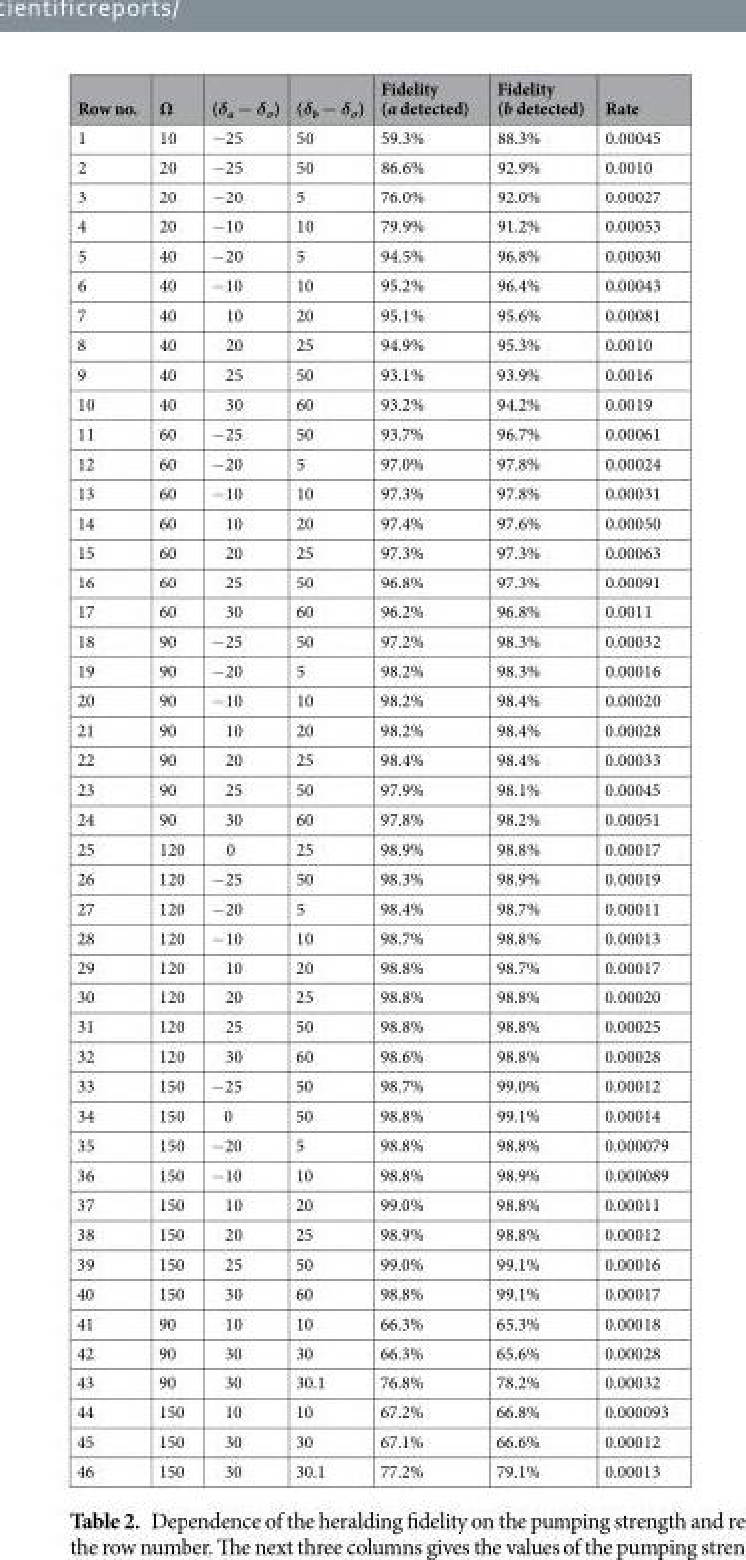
<table><thead><tr><td>Row no.</td><td>Ω</td><td>(δ<sub>a</sub> − δ<sub>σ</sub>)</td><td>(δ<sub>b</sub> − δ<sub>σ</sub>)</td><td>Fidelity (a detected)</td><td>Fidelity (b detected)</td><td>Rate</td></tr></thead><tbody><tr><td>1</td><td>10</td><td>−25</td><td>50</td><td>59.3%</td><td>88.3%</td><td>0.00045</td></tr><tr><td>2</td><td>20</td><td>−25</td><td>50</td><td>86.6%</td><td>92.9%</td><td>0.0010</td></tr><tr><td>3</td><td>20</td><td>−20</td><td>5</td><td>76.0%</td><td>92.0%</td><td>0.00027</td></tr><tr><td>4</td><td>20</td><td>−10</td><td>10</td><td>79.9%</td><td>91.2%</td><td>0.00053</td></tr><tr><td>5</td><td>40</td><td>−20</td><td>5</td><td>94.5%</td><td>96.8%</td><td>0.00030</td></tr><tr><td>6</td><td>40</td><td>−10</td><td>10</td><td>95.2%</td><td>96.4%</td><td>0.00043</td></tr><tr><td>7</td><td>40</td><td>10</td><td>20</td><td>95.1%</td><td>95.6%</td><td>0.00081</td></tr><tr><td>8</td><td>40</td><td>20</td><td>25</td><td>94.9%</td><td>95.3%</td><td>0.0010</td></tr><tr><td>9</td><td>40</td><td>25</td><td>50</td><td>93.1%</td><td>93.9%</td><td>0.0016</td></tr><tr><td>10</td><td>40</td><td>30</td><td>60</td><td>93.2%</td><td>94.2%</td><td>0.0019</td></tr><tr><td>11</td><td>60</td><td>−25</td><td>50</td><td>93.7%</td><td>96.7%</td><td>0.00061</td></tr><tr><td>12</td><td>60</td><td>−20</td><td>5</td><td>97.0%</td><td>97.8%</td><td>0.00024</td></tr><tr><td>13</td><td>60</td><td>−10</td><td>10</td><td>97.3%</td><td>97.8%</td><td>0.00031</td></tr><tr><td>14</td><td>60</td><td>10</td><td>20</td><td>97.4%</td><td>97.6%</td><td>0.00050</td></tr><tr><td>15</td><td>60</td><td>20</td><td>25</td><td>97.3%</td><td>97.3%</td><td>0.00063</td></tr><tr><td>16</td><td>60</td><td>25</td><td>50</td><td>96.8%</td><td>97.3%</td><td>0.00091</td></tr><tr><td>17</td><td>60</td><td>30</td><td>60</td><td>96.2%</td><td>96.8%</td><td>0.0011</td></tr><tr><td>18</td><td>90</td><td>−25</td><td>50</td><td>97.2%</td><td>98.3%</td><td>0.00032</td></tr><tr><td>19</td><td>90</td><td>−20</td><td>5</td><td>98.2%</td><td>98.3%</td><td>0.00016</td></tr><tr><td>20</td><td>90</td><td>−10</td><td>10</td><td>98.2%</td><td>98.4%</td><td>0.00020</td></tr><tr><td>21</td><td>90</td><td>10</td><td>20</td><td>98.2%</td><td>98.4%</td><td>0.00028</td></tr><tr><td>22</td><td>90</td><td>20</td><td>25</td><td>98.4%</td><td>98.4%</td><td>0.00033</td></tr><tr><td>23</td><td>90</td><td>25</td><td>50</td><td>97.9%</td><td>98.1%</td><td>0.00045</td></tr><tr><td>24</td><td>90</td><td>30</td><td>60</td><td>97.8%</td><td>98.2%</td><td>0.00051</td></tr><tr><td>25</td><td>120</td><td>0</td><td>25</td><td>98.9%</td><td>98.8%</td><td>0.00017</td></tr><tr><td>26</td><td>120</td><td>−25</td><td>50</td><td>98.3%</td><td>98.9%</td><td>0.00019</td></tr><tr><td>27</td><td>120</td><td>−20</td><td>5</td><td>98.4%</td><td>98.7%</td><td>0.00011</td></tr><tr><td>28</td><td>120</td><td>−10</td><td>10</td><td>98.7%</td><td>98.8%</td><td>0.00013</td></tr><tr><td>29</td><td>120</td><td>10</td><td>20</td><td>98.8%</td><td>98.7%</td><td>0.00017</td></tr><tr><td>30</td><td>120</td><td>20</td><td>25</td><td>98.8%</td><td>98.8%</td><td>0.00020</td></tr><tr><td>31</td><td>120</td><td>25</td><td>50</td><td>98.8%</td><td>98.8%</td><td>0.00025</td></tr><tr><td>32</td><td>120</td><td>30</td><td>60</td><td>98.6%</td><td>98.8%</td><td>0.00028</td></tr><tr><td>33</td><td>150</td><td>−25</td><td>50</td><td>98.7%</td><td>99.0%</td><td>0.00012</td></tr><tr><td>34</td><td>150</td><td>0</td><td>50</td><td>98.8%</td><td>99.1%</td><td>0.00014</td></tr><tr><td>35</td><td>150</td><td>−20</td><td>5</td><td>98.8%</td><td>98.8%</td><td>0.000079</td></tr><tr><td>36</td><td>150</td><td>−10</td><td>10</td><td>98.8%</td><td>98.9%</td><td>0.000089</td></tr><tr><td>37</td><td>150</td><td>10</td><td>20</td><td>99.0%</td><td>98.8%</td><td>0.00011</td></tr><tr><td>38</td><td>150</td><td>20</td><td>25</td><td>98.9%</td><td>98.8%</td><td>0.00012</td></tr><tr><td>39</td><td>150</td><td>25</td><td>50</td><td>99.0%</td><td>99.1%</td><td>0.00016</td></tr><tr><td>40</td><td>150</td><td>30</td><td>60</td><td>98.8%</td><td>99.1%</td><td>0.00017</td></tr><tr><td>41</td><td>90</td><td>10</td><td>10</td><td>66.3%</td><td>65.3%</td><td>0.00018</td></tr><tr><td>42</td><td>90</td><td>30</td><td>30</td><td>66.3%</td><td>65.6%</td><td>0.00028</td></tr><tr><td>43</td><td>90</td><td>30</td><td>30.1</td><td>76.8%</td><td>78.2%</td><td>0.00032</td></tr><tr><td>44</td><td>150</td><td>10</td><td>10</td><td>67.2%</td><td>66.8%</td><td>0.000093</td></tr><tr><td>45</td><td>150</td><td>30</td><td>30</td><td>67.1%</td><td>66.6%</td><td>0.00012</td></tr><tr><td>46</td><td>150</td><td>30</td><td>30.1</td><td>77.2%</td><td>79.1%</td><td>0.00013</td></tr></tbody></table>